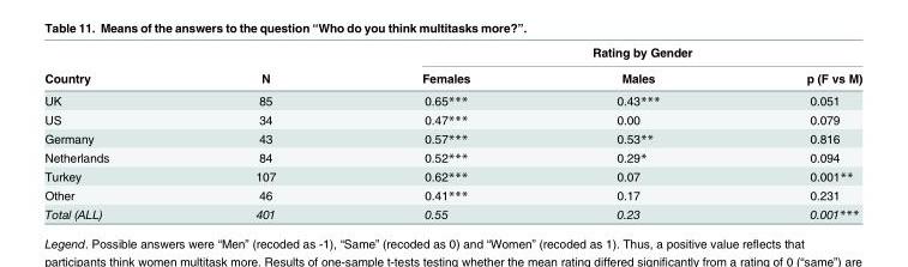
<table><thead><tr><td rowspan="2">Country</td><td rowspan="2">N</td><td colspan="3">Rating by Gender</td></tr><tr><td>Females</td><td>Males</td><td>p (F vs M)</td></tr></thead><tbody><tr><td>UK</td><td>85</td><td>0.65***</td><td>0.43***</td><td>0.051</td></tr><tr><td>US</td><td>34</td><td>0.47***</td><td>0.00</td><td>0.079</td></tr><tr><td>Germany</td><td>43</td><td>0.57***</td><td>0.53**</td><td>0.816</td></tr><tr><td>Netherlands</td><td>84</td><td>0.52***</td><td>0.29*</td><td>0.094</td></tr><tr><td>Turkey</td><td>107</td><td>0.62***</td><td>0.07</td><td>0.001**</td></tr><tr><td>Other</td><td>46</td><td>0.41***</td><td>0.17</td><td>0.231</td></tr><tr><td>Total (ALL)</td><td>401</td><td>0.55</td><td>0.23</td><td>0.001***</td></tr></tbody></table>